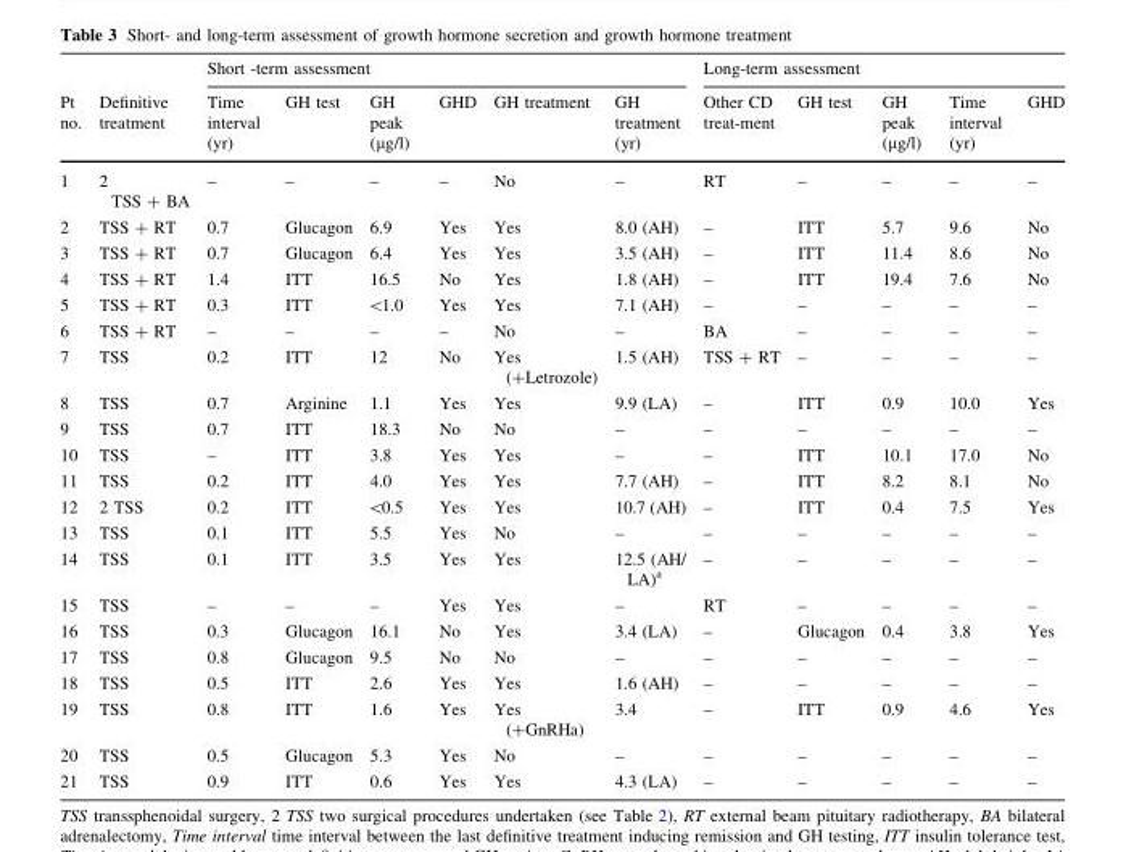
<table><thead><tr><td rowspan="2">Pt no.</td><td rowspan="2">Definitive treatment</td><td colspan="6">Short -term assessment</td><td colspan="5">Long-term assessment</td></tr><tr><td>Time interval (yr)</td><td>GH test</td><td>GH peak (μg/l)</td><td>GHD</td><td>GH treatment</td><td>GH treatment (yr)</td><td>Other CD treat-ment</td><td>GH test</td><td>GH peak (μg/l)</td><td>Time interval (yr)</td><td>GHD</td></tr></thead><tbody><tr><td>1</td><td>2 TSS + BA</td><td>–</td><td>–</td><td>–</td><td>–</td><td>No</td><td>–</td><td>RT</td><td>–</td><td>–</td><td>–</td><td>–</td></tr><tr><td>2</td><td>TSS + RT</td><td>0.7</td><td>Glucagon</td><td>6.9</td><td>Yes</td><td>Yes</td><td>8.0 (AH)</td><td>–</td><td>ITT</td><td>5.7</td><td>9.6</td><td>No</td></tr><tr><td>3</td><td>TSS + RT</td><td>0.7</td><td>Glucagon</td><td>6.4</td><td>Yes</td><td>Yes</td><td>3.5 (AH)</td><td>–</td><td>ITT</td><td>11.4</td><td>8.6</td><td>No</td></tr><tr><td>4</td><td>TSS + RT</td><td>1.4</td><td>ITT</td><td>16.5</td><td>No</td><td>Yes</td><td>1.8 (AH)</td><td>–</td><td>ITT</td><td>19.4</td><td>7.6</td><td>No</td></tr><tr><td>5</td><td>TSS + RT</td><td>0.3</td><td>ITT</td><td>&lt;1.0</td><td>Yes</td><td>Yes</td><td>7.1 (AH)</td><td>–</td><td>–</td><td>–</td><td>–</td><td>–</td></tr><tr><td>6</td><td>TSS + RT</td><td>–</td><td>–</td><td>–</td><td>–</td><td>No</td><td>–</td><td>BA</td><td>–</td><td>–</td><td>–</td><td>–</td></tr><tr><td>7</td><td>TSS</td><td>0.2</td><td>ITT</td><td>12</td><td>No</td><td>Yes (+Letrozole)</td><td>1.5 (AH)</td><td>TSS + RT</td><td>–</td><td>–</td><td>–</td><td>–</td></tr><tr><td>8</td><td>TSS</td><td>0.7</td><td>Arginine</td><td>1.1</td><td>Yes</td><td>Yes</td><td>9.9 (LA)</td><td>–</td><td>ITT</td><td>0.9</td><td>10.0</td><td>Yes</td></tr><tr><td>9</td><td>TSS</td><td>0.7</td><td>ITT</td><td>18.3</td><td>No</td><td>No</td><td>–</td><td>–</td><td>–</td><td>–</td><td>–</td><td>–</td></tr><tr><td>10</td><td>TSS</td><td>–</td><td>ITT</td><td>3.8</td><td>Yes</td><td>Yes</td><td>–</td><td>–</td><td>ITT</td><td>10.1</td><td>17.0</td><td>No</td></tr><tr><td>11</td><td>TSS</td><td>0.2</td><td>ITT</td><td>4.0</td><td>Yes</td><td>Yes</td><td>7.7 (AH)</td><td>–</td><td>ITT</td><td>8.2</td><td>8.1</td><td>No</td></tr><tr><td>12</td><td>2 TSS</td><td>0.2</td><td>ITT</td><td>&lt;0.5</td><td>Yes</td><td>Yes</td><td>10.7 (AH)</td><td>–</td><td>ITT</td><td>0.4</td><td>7.5</td><td>Yes</td></tr><tr><td>13</td><td>TSS</td><td>0.1</td><td>ITT</td><td>5.5</td><td>Yes</td><td>No</td><td>–</td><td>–</td><td>–</td><td>–</td><td>–</td><td>–</td></tr><tr><td>14</td><td>TSS</td><td>0.1</td><td>ITT</td><td>3.5</td><td>Yes</td><td>Yes</td><td>12.5 (AH/ LA)<sup>a</sup></td><td>–</td><td>–</td><td>–</td><td>–</td><td>–</td></tr><tr><td>15</td><td>TSS</td><td>–</td><td>–</td><td>–</td><td>Yes</td><td>Yes</td><td>–</td><td>RT</td><td>–</td><td>–</td><td>–</td><td>–</td></tr><tr><td>16</td><td>TSS</td><td>0.3</td><td>Glucagon</td><td>16.1</td><td>No</td><td>Yes</td><td>3.4 (LA)</td><td>–</td><td>Glucagon</td><td>0.4</td><td>3.8</td><td>Yes</td></tr><tr><td>17</td><td>TSS</td><td>0.8</td><td>Glucagon</td><td>9.5</td><td>No</td><td>No</td><td>–</td><td>–</td><td>–</td><td>–</td><td>–</td><td>–</td></tr><tr><td>18</td><td>TSS</td><td>0.5</td><td>ITT</td><td>2.6</td><td>Yes</td><td>Yes</td><td>1.6 (AH)</td><td>–</td><td>–</td><td>–</td><td>–</td><td>–</td></tr><tr><td>19</td><td>TSS</td><td>0.8</td><td>ITT</td><td>1.6</td><td>Yes</td><td>Yes (+GnRHa)</td><td>3.4</td><td>–</td><td>ITT</td><td>0.9</td><td>4.6</td><td>Yes</td></tr><tr><td>20</td><td>TSS</td><td>0.5</td><td>Glucagon</td><td>5.3</td><td>Yes</td><td>No</td><td>–</td><td>–</td><td>–</td><td>–</td><td>–</td><td>–</td></tr><tr><td>21</td><td>TSS</td><td>0.9</td><td>ITT</td><td>0.6</td><td>Yes</td><td>Yes</td><td>4.3 (LA)</td><td>–</td><td>–</td><td>–</td><td>–</td><td>–</td></tr></tbody></table>